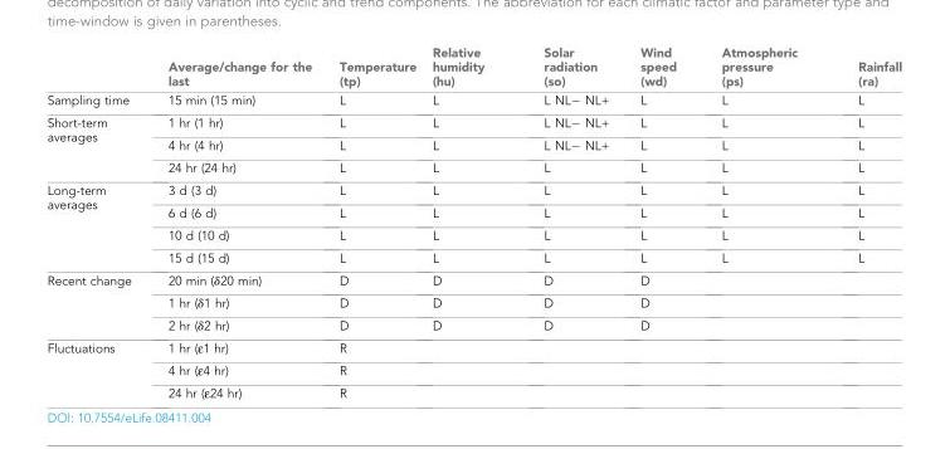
<table><thead><tr><td></td><td>Average/change for the last</td><td>Temperature (tp)</td><td>Relative humidity (hu)</td><td>Solar radiation (so)</td><td>Wind speed (wd)</td><td>Atmospheric pressure (ps)</td><td>Rainfall (ra)</td></tr></thead><tbody><tr><td>Sampling time</td><td>15 min (15 min)</td><td>L</td><td>L</td><td>L NL− NL+</td><td>L</td><td>L</td><td>L</td></tr><tr><td rowspan="3">Short-term averages</td><td>1 hr (1 hr)</td><td>L</td><td>L</td><td>L NL− NL+</td><td>L</td><td>L</td><td>L</td></tr><tr><td>4 hr (4 hr)</td><td>L</td><td>L</td><td>L NL− NL+</td><td>L</td><td>L</td><td>L</td></tr><tr><td>24 hr (24 hr)</td><td>L</td><td>L</td><td>L</td><td>L</td><td>L</td><td>L</td></tr><tr><td rowspan="4">Long-term averages</td><td>3 d (3 d)</td><td>L</td><td>L</td><td>L</td><td>L</td><td>L</td><td>L</td></tr><tr><td>6 d (6 d)</td><td>L</td><td>L</td><td>L</td><td>L</td><td>L</td><td>L</td></tr><tr><td>10 d (10 d)</td><td>L</td><td>L</td><td>L</td><td>L</td><td>L</td><td>L</td></tr><tr><td>15 d (15 d)</td><td>L</td><td>L</td><td>L</td><td>L</td><td>L</td><td>L</td></tr><tr><td rowspan="3">Recent change</td><td>20 min (δ20 min)</td><td>D</td><td>D</td><td>D</td><td>D</td><td></td><td></td></tr><tr><td>1 hr (δ1 hr)</td><td>D</td><td>D</td><td>D</td><td>D</td><td></td><td></td></tr><tr><td>2 hr (δ2 hr)</td><td>D</td><td>D</td><td>D</td><td>D</td><td></td><td></td></tr><tr><td rowspan="3">Fluctuations</td><td>1 hr (ε1 hr)</td><td>R</td><td></td><td></td><td></td><td></td><td></td></tr><tr><td>4 hr (ε4 hr)</td><td>R</td><td></td><td></td><td></td><td></td><td></td></tr><tr><td>24 hr (ε24 hr)</td><td>R</td><td></td><td></td><td></td><td></td><td></td></tr></tbody></table>